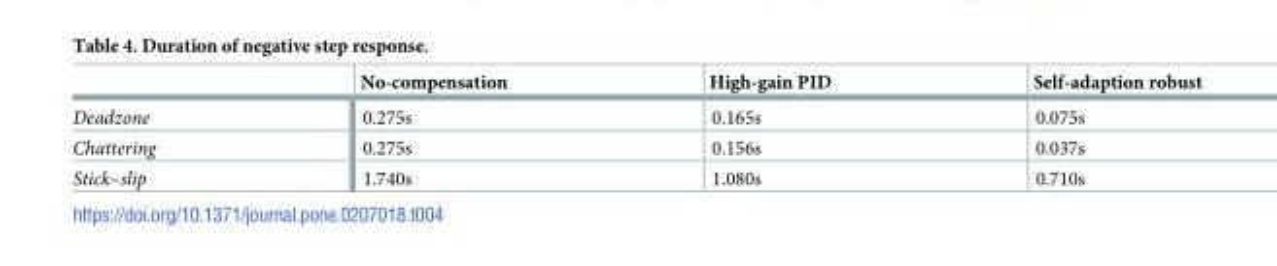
<table><thead><tr><td></td><td>No-compensation</td><td>High-gain PID</td><td>Self-adaption robust</td></tr></thead><tbody><tr><td>Deadzone</td><td>0.275s</td><td>0.165s</td><td>0.075s</td></tr><tr><td>Chattering</td><td>0.275s</td><td>0.156s</td><td>0.037s</td></tr><tr><td>Stick–slip</td><td>1.740s</td><td>1.080s</td><td>0.710s</td></tr></tbody></table>